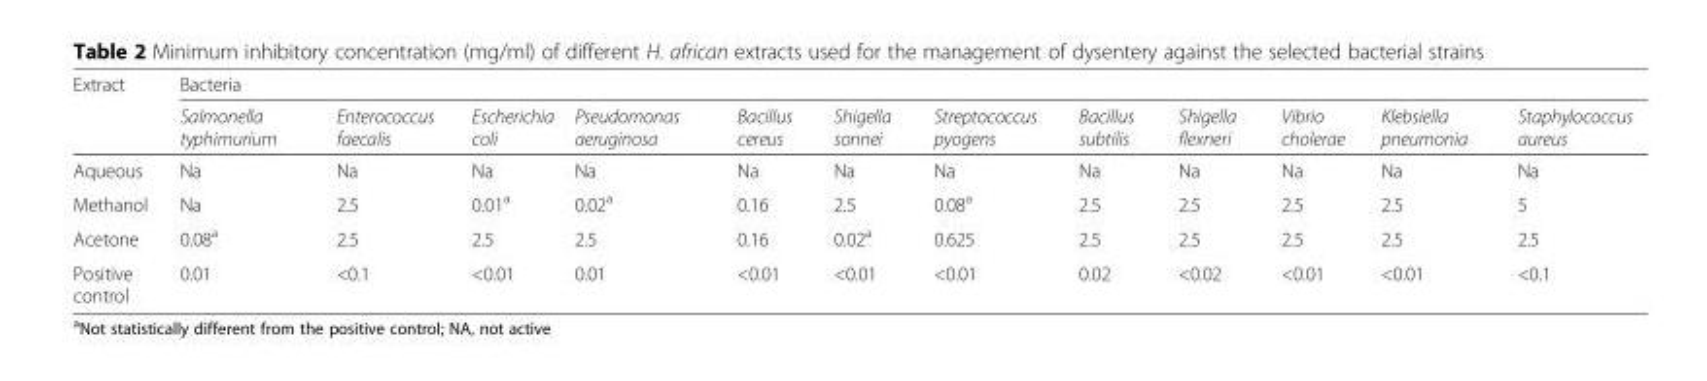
<table><thead><tr><td rowspan="2">Extract</td><td colspan="12">Bacteria</td></tr><tr><td>Salmonella typhimurium</td><td>Enterococcus faecalis</td><td>Escherichia coli</td><td>Pseudomonas aeruginosa</td><td>Bacillus cereus</td><td>Shigella sonnei</td><td>Streptococcus pyogens</td><td>Bacillus subtilis</td><td>Shigella flexneri</td><td>Vibrio cholerae</td><td>Klebsiella pneumonia</td><td>Staphylococcus aureus</td></tr></thead><tbody><tr><td>Aqueous</td><td>Na</td><td>Na</td><td>Na</td><td>Na</td><td>Na</td><td>Na</td><td>Na</td><td>Na</td><td>Na</td><td>Na</td><td>Na</td><td>Na</td></tr><tr><td>Methanol</td><td>Na</td><td>2.5</td><td>0.01<sup>a</sup></td><td>0.02<sup>a</sup></td><td>0.16</td><td>2.5</td><td>0.08<sup>a</sup></td><td>2.5</td><td>2.5</td><td>2.5</td><td>2.5</td><td>5</td></tr><tr><td>Acetone</td><td>0.08<sup>a</sup></td><td>2.5</td><td>2.5</td><td>2.5</td><td>0.16</td><td>0.02<sup>a</sup></td><td>0.625</td><td>2.5</td><td>2.5</td><td>2.5</td><td>2.5</td><td>2.5</td></tr><tr><td>Positive control</td><td>0.01</td><td>&lt;0.1</td><td>&lt;0.01</td><td>0.01</td><td>&lt;0.01</td><td>&lt;0.01</td><td>&lt;0.01</td><td>0.02</td><td>&lt;0.02</td><td>&lt;0.01</td><td>&lt;0.01</td><td>&lt;0.1</td></tr></tbody></table>